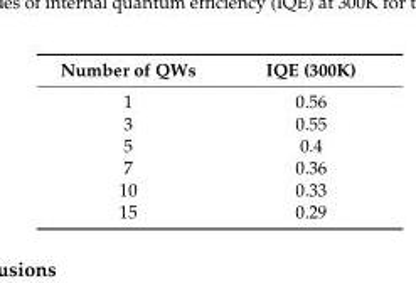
<table><thead><tr><td>Number of QWs</td><td>IQE (300K)</td></tr></thead><tbody><tr><td>1</td><td>0.56</td></tr><tr><td>3</td><td>0.55</td></tr><tr><td>5</td><td>0.4</td></tr><tr><td>7</td><td>0.36</td></tr><tr><td>10</td><td>0.33</td></tr><tr><td>15</td><td>0.29</td></tr></tbody></table>